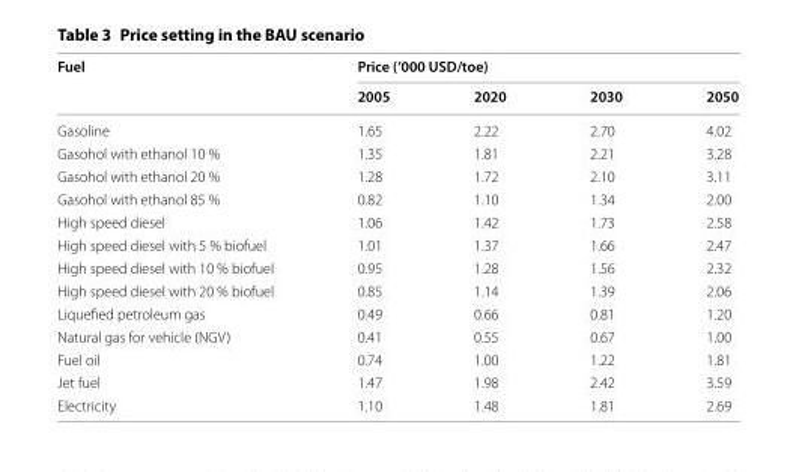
<table><thead><tr><td rowspan="2">Fuel</td><td colspan="4">Price (‘000 USD/toe)</td></tr><tr><td>2005</td><td>2020</td><td>2030</td><td>2050</td></tr></thead><tbody><tr><td>Gasoline</td><td>1.65</td><td>2.22</td><td>2.70</td><td>4.02</td></tr><tr><td>Gasohol with ethanol 10 %</td><td>1.35</td><td>1.81</td><td>2.21</td><td>3.28</td></tr><tr><td>Gasohol with ethanol 20 %</td><td>1.28</td><td>1.72</td><td>2.10</td><td>3.11</td></tr><tr><td>Gasohol with ethanol 85 %</td><td>0.82</td><td>1.10</td><td>1.34</td><td>2.00</td></tr><tr><td>High speed diesel</td><td>1.06</td><td>1.42</td><td>1.73</td><td>2.58</td></tr><tr><td>High speed diesel with 5 % biofuel</td><td>1.01</td><td>1.37</td><td>1.66</td><td>2.47</td></tr><tr><td>High speed diesel with 10 % biofuel</td><td>0.95</td><td>1.28</td><td>1.56</td><td>2.32</td></tr><tr><td>High speed diesel with 20 % biofuel</td><td>0.85</td><td>1.14</td><td>1.39</td><td>2.06</td></tr><tr><td>Liquefied petroleum gas</td><td>0.49</td><td>0.66</td><td>0.81</td><td>1.20</td></tr><tr><td>Natural gas for vehicle (NGV)</td><td>0.41</td><td>0.55</td><td>0.67</td><td>1.00</td></tr><tr><td>Fuel oil</td><td>0.74</td><td>1.00</td><td>1.22</td><td>1.81</td></tr><tr><td>Jet fuel</td><td>1.47</td><td>1.98</td><td>2.42</td><td>3.59</td></tr><tr><td>Electricity</td><td>1.10</td><td>1.48</td><td>1.81</td><td>2.69</td></tr></tbody></table>